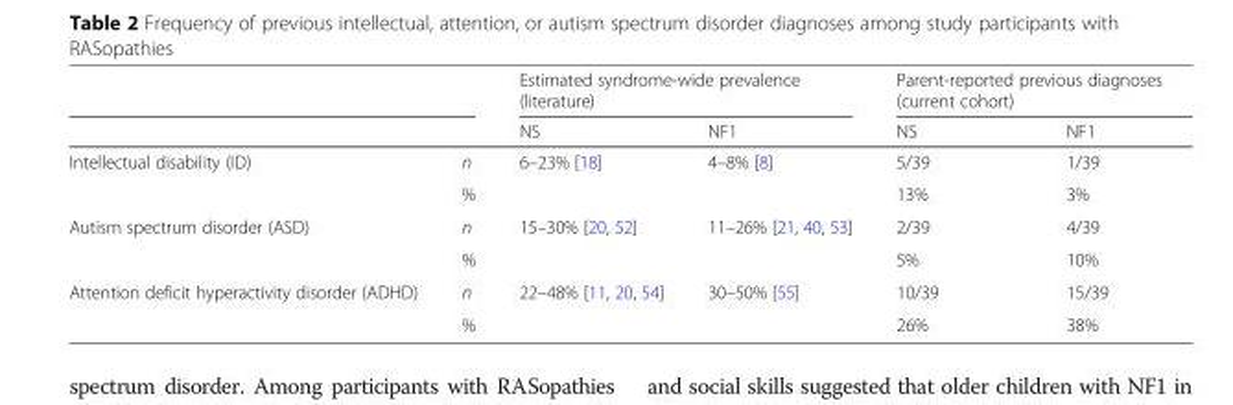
<table><thead><tr><td rowspan="2"></td><td rowspan="2"></td><td colspan="2">Estimated syndrome-wide prevalence (literature)</td><td colspan="2">Parent-reported previous diagnoses (current cohort)</td></tr><tr><td>NS</td><td>NF1</td><td>NS</td><td>NF1</td></tr></thead><tbody><tr><td rowspan="2">Intellectual disability (ID)</td><td>n</td><td rowspan="2">6–23% [18]</td><td rowspan="2">4–8% [8]</td><td>5/39</td><td>1/39</td></tr><tr><td>%</td><td>13%</td><td>3%</td></tr><tr><td rowspan="2">Autism spectrum disorder (ASD)</td><td>n</td><td rowspan="2">15–30% [20, 52]</td><td rowspan="2">11–26% [21, 40, 53]</td><td>2/39</td><td>4/39</td></tr><tr><td>%</td><td>5%</td><td>10%</td></tr><tr><td rowspan="2">Attention deficit hyperactivity disorder (ADHD)</td><td>n</td><td rowspan="2">22–48% [11, 20, 54]</td><td rowspan="2">30–50% [55]</td><td>10/39</td><td>15/39</td></tr><tr><td>%</td><td>26%</td><td>38%</td></tr></tbody></table>